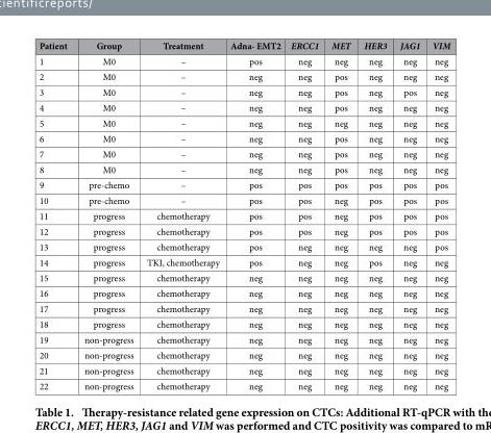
<table><thead><tr><td>Patient</td><td>Group</td><td>Treatment</td><td>Adna- EMT2</td><td>ERCC1</td><td>MET</td><td>HER3</td><td>JAG1</td><td>VIM</td></tr></thead><tbody><tr><td>1</td><td>M0</td><td>–</td><td>pos</td><td>neg</td><td>neg</td><td>neg</td><td>neg</td><td>neg</td></tr><tr><td>2</td><td>M0</td><td>–</td><td>neg</td><td>neg</td><td>pos</td><td>neg</td><td>neg</td><td>neg</td></tr><tr><td>3</td><td>M0</td><td>–</td><td>neg</td><td>neg</td><td>pos</td><td>neg</td><td>pos</td><td>neg</td></tr><tr><td>4</td><td>M0</td><td>–</td><td>neg</td><td>neg</td><td>pos</td><td>neg</td><td>neg</td><td>neg</td></tr><tr><td>5</td><td>M0</td><td>–</td><td>neg</td><td>neg</td><td>neg</td><td>neg</td><td>neg</td><td>neg</td></tr><tr><td>6</td><td>M0</td><td>–</td><td>neg</td><td>neg</td><td>pos</td><td>neg</td><td>neg</td><td>neg</td></tr><tr><td>7</td><td>M0</td><td>–</td><td>neg</td><td>neg</td><td>pos</td><td>neg</td><td>neg</td><td>neg</td></tr><tr><td>8</td><td>M0</td><td>–</td><td>neg</td><td>neg</td><td>pos</td><td>neg</td><td>neg</td><td>neg</td></tr><tr><td>9</td><td>pre-chemo</td><td>–</td><td>pos</td><td>pos</td><td>pos</td><td>pos</td><td>pos</td><td>pos</td></tr><tr><td>10</td><td>pre-chemo</td><td>–</td><td>pos</td><td>pos</td><td>neg</td><td>pos</td><td>pos</td><td>pos</td></tr><tr><td>11</td><td>progress</td><td>chemotherapy</td><td>pos</td><td>pos</td><td>neg</td><td>pos</td><td>pos</td><td>pos</td></tr><tr><td>12</td><td>progress</td><td>chemotherapy</td><td>pos</td><td>pos</td><td>neg</td><td>pos</td><td>pos</td><td>pos</td></tr><tr><td>13</td><td>progress</td><td>chemotherapy</td><td>pos</td><td>neg</td><td>neg</td><td>neg</td><td>neg</td><td>pos</td></tr><tr><td>14</td><td>progress</td><td>TKI, chemotherapy</td><td>pos</td><td>neg</td><td>neg</td><td>pos</td><td>neg</td><td>neg</td></tr><tr><td>15</td><td>progress</td><td>chemotherapy</td><td>neg</td><td>neg</td><td>neg</td><td>neg</td><td>neg</td><td>neg</td></tr><tr><td>16</td><td>progress</td><td>chemotherapy</td><td>neg</td><td>neg</td><td>neg</td><td>neg</td><td>neg</td><td>neg</td></tr><tr><td>17</td><td>progress</td><td>chemotherapy</td><td>neg</td><td>neg</td><td>neg</td><td>neg</td><td>neg</td><td>neg</td></tr><tr><td>18</td><td>progress</td><td>chemotherapy</td><td>neg</td><td>neg</td><td>neg</td><td>neg</td><td>neg</td><td>neg</td></tr><tr><td>19</td><td>non-progress</td><td>chemotherapy</td><td>neg</td><td>neg</td><td>neg</td><td>neg</td><td>neg</td><td>neg</td></tr><tr><td>20</td><td>non-progress</td><td>chemotherapy</td><td>neg</td><td>neg</td><td>neg</td><td>neg</td><td>neg</td><td>neg</td></tr><tr><td>21</td><td>non-progress</td><td>chemotherapy</td><td>neg</td><td>neg</td><td>neg</td><td>neg</td><td>neg</td><td>neg</td></tr><tr><td>22</td><td>non-progress</td><td>chemotherapy</td><td>neg</td><td>neg</td><td>neg</td><td>neg</td><td>neg</td><td>neg</td></tr></tbody></table>